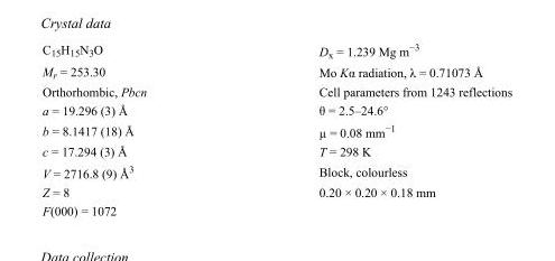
<table><tbody><tr><td>C<sub>15</sub>H<sub>15</sub>N<sub>3</sub>O</td><td>D<sub>x</sub> = 1.239 Mg m<sup>−3</sup></td></tr><tr><td>M<sub>r</sub> = 253.30</td><td>Mo Kα radiation, λ = 0.71073 Å</td></tr><tr><td>Orthorhombic, Pbcn</td><td>Cell parameters from 1243 reflections</td></tr><tr><td>a = 19.296 (3) Å</td><td>θ = 2.5–24.6°</td></tr><tr><td>b = 8.1417 (18) Å</td><td>µ = 0.08 mm<sup>−1</sup></td></tr><tr><td>c = 17.294 (3) Å</td><td>T = 298 K</td></tr><tr><td>V = 2716.8 (9) Å<sup>3</sup></td><td>Block, colourless</td></tr><tr><td>Z = 8</td><td>0.20 × 0.20 × 0.18 mm</td></tr><tr><td>F(000) = 1072</td><td></td></tr></tbody></table>